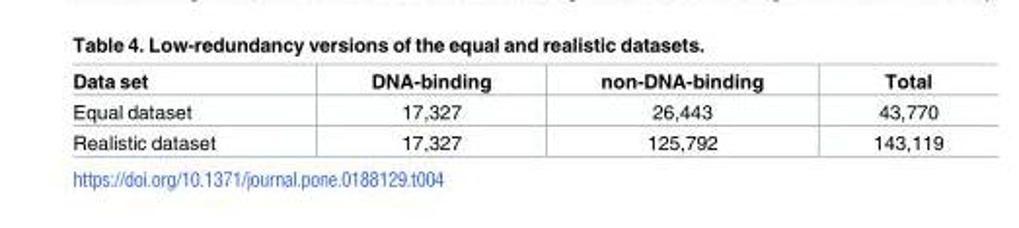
<table><thead><tr><td>Data set</td><td>DNA-binding</td><td>non-DNA-binding</td><td>Total</td></tr></thead><tbody><tr><td>Equal dataset</td><td>17,327</td><td>26,443</td><td>43,770</td></tr><tr><td>Realistic dataset</td><td>17,327</td><td>125,792</td><td>143,119</td></tr></tbody></table>